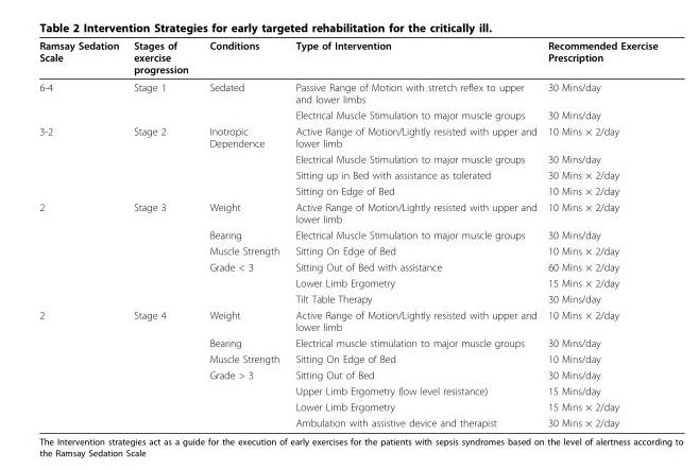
<table><thead><tr><td>Ramsay Sedation Scale</td><td>Stages of exercise progression</td><td>Conditions</td><td>Type of Intervention</td><td>Recommended Exercise Prescription</td></tr></thead><tbody><tr><td rowspan="2">6-4</td><td>Stage 1</td><td>Sedated</td><td>Passive Range of Motion with stretch reflex to upper and lower limbs</td><td>30 Mins/day</td></tr><tr><td></td><td></td><td>Electrical Muscle Stimulation to major muscle groups</td><td>30 Mins/day</td></tr><tr><td rowspan="4">3-2</td><td>Stage 2</td><td>Inotropic Dependence</td><td>Active Range of Motion/Lightly resisted with upper and lower limb</td><td>10 Mins × 2/day</td></tr><tr><td></td><td></td><td>Electrical Muscle Stimulation to major muscle groups</td><td>30 Mins/day</td></tr><tr><td></td><td></td><td>Sitting up in Bed with assistance as tolerated</td><td>30 Mins × 2/day</td></tr><tr><td></td><td></td><td>Sitting on Edge of Bed</td><td>10 Mins × 2/day</td></tr><tr><td rowspan="6">2</td><td>Stage 3</td><td>Weight</td><td>Active Range of Motion/Lightly resisted with upper and lower limb</td><td>10 Mins × 2/day</td></tr><tr><td></td><td>Bearing</td><td>Electrical Muscle Stimulation to major muscle groups</td><td>30 Mins/day</td></tr><tr><td></td><td>Muscle Strength</td><td>Sitting On Edge of Bed</td><td>10 Mins × 2/day</td></tr><tr><td></td><td>Grade &lt; 3</td><td>Sitting Out of Bed with assistance</td><td>60 Mins × 2/day</td></tr><tr><td></td><td></td><td>Lower Limb Ergometry</td><td>15 Mins × 2/day</td></tr><tr><td></td><td></td><td>Tilt Table Therapy</td><td>30 Mins/day</td></tr><tr><td rowspan="7">2</td><td>Stage 4</td><td>Weight</td><td>Active Range of Motion/Lightly resisted with upper and lower limb</td><td>10 Mins × 2/day</td></tr><tr><td></td><td>Bearing</td><td>Electrical muscle stimulation to major muscle groups</td><td>30 Mins/day</td></tr><tr><td></td><td>Muscle Strength</td><td>Sitting On Edge of Bed</td><td>10 Mins/day</td></tr><tr><td></td><td>Grade &gt; 3</td><td>Sitting Out of Bed</td><td>30 Mins/day</td></tr><tr><td></td><td></td><td>Upper Limb Ergometry (low level resistance)</td><td>15 Mins/day</td></tr><tr><td></td><td></td><td>Lower Limb Ergometry</td><td>15 Mins × 2/day</td></tr><tr><td></td><td></td><td>Ambulation with assistive device and therapist</td><td>30 Mins × 2/day</td></tr></tbody></table>